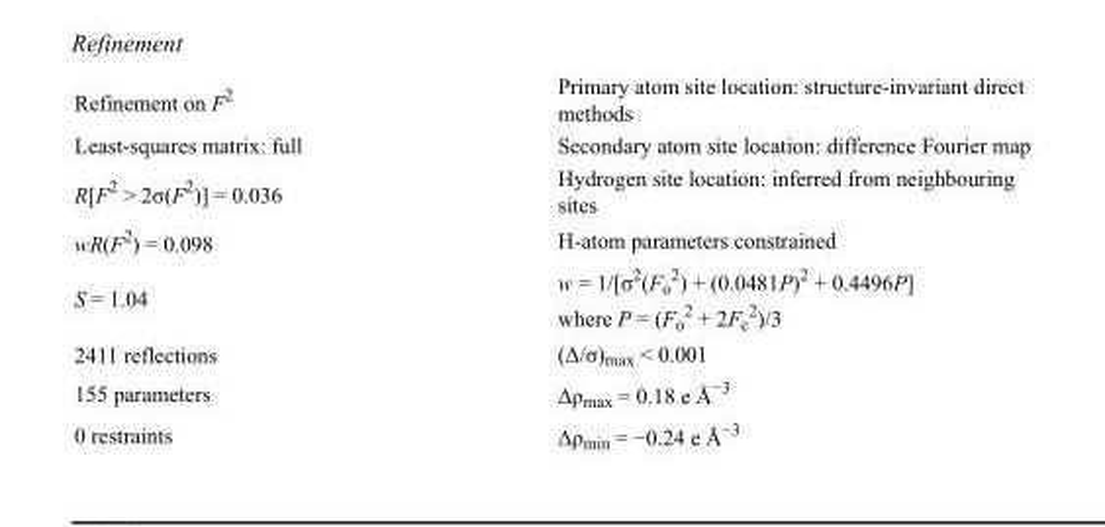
<table><tbody><tr><td>Refinement on F<sup>2</sup></td><td>Primary atom site location: structure-invariant direct methods</td></tr><tr><td>Least-squares matrix: full</td><td>Secondary atom site location: difference Fourier map</td></tr><tr><td>R[F<sup>2</sup> &gt; 2σ(F<sup>2</sup>)] = 0.036</td><td>Hydrogen site location: inferred from neighbouring sites</td></tr><tr><td>wR(F<sup>2</sup>) = 0.098</td><td>H-atom parameters constrained</td></tr><tr><td>S = 1.04</td><td>w = 1/[σ<sup>2</sup>(F<sub>o</sub> <sup>2</sup>) + (0.0481P)<sup>2</sup> + 0.4496P] where P = (F<sub>o</sub> <sup>2</sup> + 2F<sub>c</sub> <sup>2</sup>)/3</td></tr><tr><td>2411 reflections</td><td>(Δ/σ)<sub>max</sub> &lt; 0.001</td></tr><tr><td>155 parameters</td><td>Δρ<sub>max</sub> = 0.18 e Å<sup>−3</sup></td></tr><tr><td>0 restraints</td><td>Δρ<sub>min</sub> = −0.24 e Å<sup>−3</sup></td></tr></tbody></table>